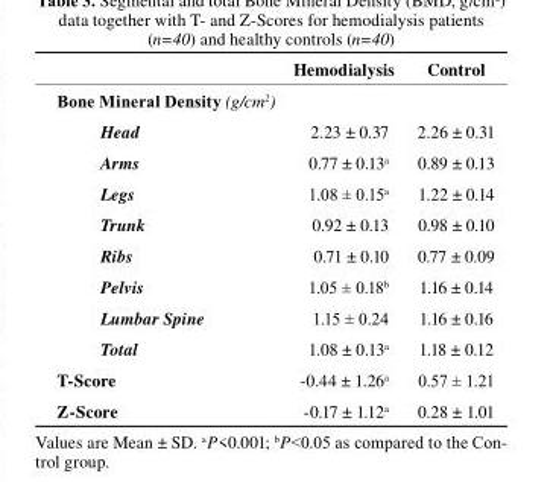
<table><thead><tr><td></td><td>Hemodialysis</td><td>control</td></tr></thead><tbody><tr><td colspan="3">Bone Mineral Density (g/cm<sup>2</sup>)</td></tr><tr><td>Head</td><td>2.23 ± 0.37</td><td>2.26 ± 0.31</td></tr><tr><td>Arms</td><td>0.77 ± 0.13<sup>a</sup></td><td>0.89 ± 0.13</td></tr><tr><td>Legs</td><td>1.08 ± 0.15<sup>a</sup></td><td>1.22 ± 0.14</td></tr><tr><td>Trunk</td><td>0.92 ± 0.13</td><td>0.98 ± 0.10</td></tr><tr><td>Ribs</td><td>0.71 ± 0.10</td><td>0.77 ± 0.09</td></tr><tr><td>Pelvis</td><td>1.05 ± 0.18<sup>b</sup></td><td>1.16 ± 0.14</td></tr><tr><td>Lumbar Spine</td><td>1.15 ± 0.24</td><td>1.16 ± 0.16</td></tr><tr><td>Total</td><td>1.08 ± 0.13<sup>a</sup></td><td>1.18 ± 0.12</td></tr><tr><td>t-score</td><td>-0.44 ± 1.26<sup>a</sup></td><td>0.57 ± 1.21</td></tr><tr><td>Z-score</td><td>-0.17 ± 1.12<sup>a</sup></td><td>0.28 ± 1.01</td></tr></tbody></table>